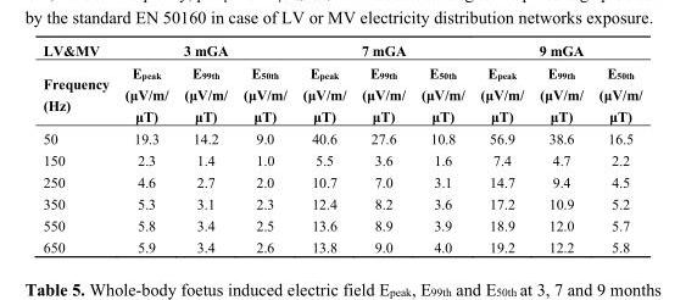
<table><thead><tr><td rowspan="2">LV&amp;MV Frequency (Hz)</td><td colspan="3">3 mGA</td><td colspan="3">7 mGA</td><td colspan="3">9 mGA</td></tr><tr><td>E<sub>peak</sub> (μV/m/ μT)</td><td>E<sub>99th</sub> (μV/m/ μT)</td><td>E<sub>50th</sub> (μV/m/ μT)</td><td>E<sub>peak</sub> (μV/m/ μT)</td><td>E<sub>99th</sub> (μV/m/ μT)</td><td>E<sub>50th</sub> (μV/m/ μT)</td><td>E<sub>peak</sub> (μV/m/ μT)</td><td>E<sub>99th</sub> (μV/m/ μT)</td><td>E<sub>50th</sub> (μV/m/ μT)</td></tr></thead><tbody><tr><td>50</td><td>19.3</td><td>14.2</td><td>9.0</td><td>40.6</td><td>27.6</td><td>10.8</td><td>56.9</td><td>38.6</td><td>16.5</td></tr><tr><td>150</td><td>2.3</td><td>1.4</td><td>1.0</td><td>5.5</td><td>3.6</td><td>1.6</td><td>7.4</td><td>4.7</td><td>2.2</td></tr><tr><td>250</td><td>4.6</td><td>2.7</td><td>2.0</td><td>10.7</td><td>7.0</td><td>3.1</td><td>14.7</td><td>9.4</td><td>4.5</td></tr><tr><td>350</td><td>5.3</td><td>3.1</td><td>2.3</td><td>12.4</td><td>8.2</td><td>3.6</td><td>17.2</td><td>10.9</td><td>5.2</td></tr><tr><td>550</td><td>5.8</td><td>3.4</td><td>2.5</td><td>13.6</td><td>8.9</td><td>3.9</td><td>18.9</td><td>12.0</td><td>5.7</td></tr><tr><td>650</td><td>5.9</td><td>3.4</td><td>2.6</td><td>13.8</td><td>9.0</td><td>4.0</td><td>19.2</td><td>12.2</td><td>5.8</td></tr></tbody></table>